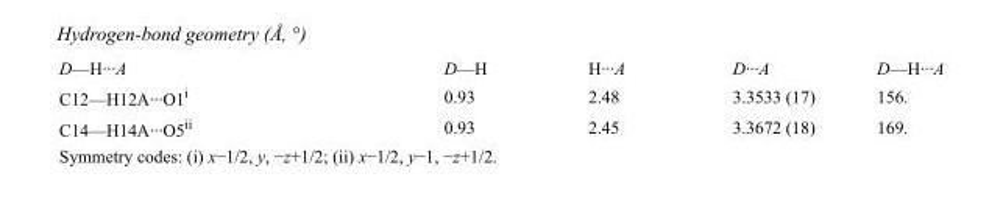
<table><tbody><tr><td>D—H···A</td><td>D—H</td><td>H···A</td><td>D···A</td><td>D—H···A</td></tr><tr><td>C12—H12A···O1<sup>i</sup></td><td>0.93</td><td>2.48</td><td>3.3533 (17)</td><td>156.</td></tr><tr><td>C14—H14A···O5<sup>ii</sup></td><td>0.93</td><td>2.45</td><td>3.3672 (18)</td><td>169.</td></tr></tbody></table>